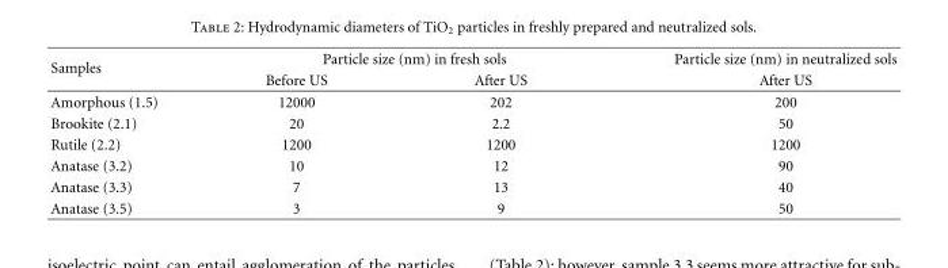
<table><thead><tr><td rowspan="2">Samples</td><td colspan="2">Particle size (nm) in fresh sols</td><td rowspan="2">Particle size (nm) in neutralized sols After US</td></tr><tr><td>Before US</td><td>After US</td></tr></thead><tbody><tr><td>Amorphous (1.5)</td><td>12000</td><td>202</td><td>200</td></tr><tr><td>Brookite (2.1)</td><td>20</td><td>2.2</td><td>50</td></tr><tr><td>Rutile (2.2)</td><td>1200</td><td>1200</td><td>1200</td></tr><tr><td>Anatase (3.2)</td><td>10</td><td>12</td><td>90</td></tr><tr><td>Anatase (3.3)</td><td>7</td><td>13</td><td>40</td></tr><tr><td>Anatase (3.5)</td><td>3</td><td>9</td><td>50</td></tr></tbody></table>